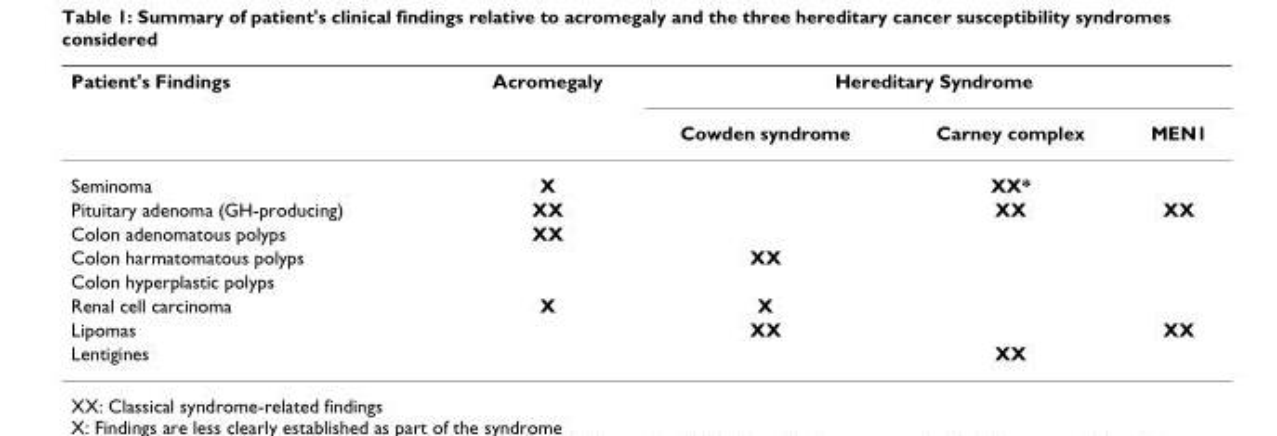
<table><thead><tr><td rowspan="2">Patient&#x27;s Findings</td><td rowspan="2">Acromegaly</td><td colspan="3">Hereditary Syndrome</td></tr><tr><td>Cowden syndrome</td><td>Carney complex</td><td>MEN1</td></tr></thead><tbody><tr><td>Seminoma</td><td>X</td><td></td><td>XX*</td><td></td></tr><tr><td>Pituitary adenoma (GH-producing)</td><td>XX</td><td></td><td>XX</td><td>XX</td></tr><tr><td>Colon adenomatous polyps</td><td>XX</td><td></td><td></td><td></td></tr><tr><td>Colon harmatomatous polyps</td><td></td><td>XX</td><td></td><td></td></tr><tr><td colspan="5">Colon hyperplastic polyps</td></tr><tr><td>Renal cell carcinoma</td><td>X</td><td>X</td><td></td><td></td></tr><tr><td>Lipomas</td><td></td><td>XX</td><td></td><td>XX</td></tr><tr><td>Lentigines</td><td></td><td></td><td>XX</td><td></td></tr></tbody></table>